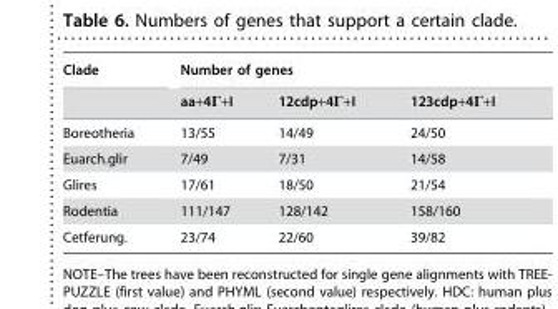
<table><thead><tr><td rowspan="2">Clade</td><td colspan="3">Number of genes</td></tr><tr><td>aa+4Γ+I</td><td>12cdp+4Γ+I</td><td>123cdp+4Γ+I</td></tr></thead><tbody><tr><td>Boreotheria</td><td>13/55</td><td>14/49</td><td>24/50</td></tr><tr><td>Euarch.glir</td><td>7/49</td><td>7/31</td><td>14/58</td></tr><tr><td>Glires</td><td>17/61</td><td>18/50</td><td>21/54</td></tr><tr><td>Rodentia</td><td>111/147</td><td>128/142</td><td>158/160</td></tr><tr><td>Cetferung.</td><td>23/74</td><td>22/60</td><td>39/82</td></tr></tbody></table>